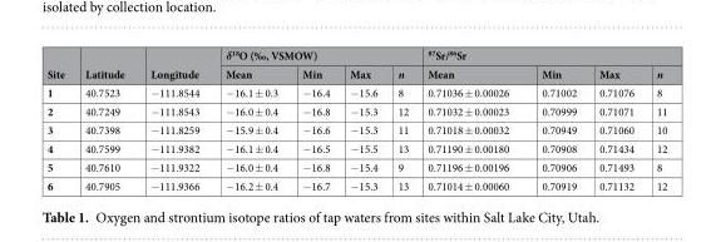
<table><thead><tr><td rowspan="2">Site</td><td rowspan="2">Latitude</td><td rowspan="2">Longitude</td><td colspan="4">δ<sup>18</sup>O (‰, VSMOW)</td><td colspan="4"><sup>87</sup>Sr/<sup>86</sup>Sr</td></tr><tr><td>Mean</td><td>Min</td><td>Max</td><td>n</td><td>Mean</td><td>Min</td><td>Max</td><td>n</td></tr></thead><tbody><tr><td>1</td><td>40.7523</td><td>−111.8544</td><td>−16.1 ± 0.3</td><td>−16.4</td><td>−15.6</td><td>8</td><td>0.71036 ± 0.00026</td><td>0.71002</td><td>0.71076</td><td>8</td></tr><tr><td>2</td><td>40.7249</td><td>−111.8543</td><td>−16.0 ± 0.4</td><td>−16.8</td><td>−15.3</td><td>12</td><td>0.71032 ± 0.00023</td><td>0.70999</td><td>0.71071</td><td>11</td></tr><tr><td>3</td><td>40.7398</td><td>−111.8259</td><td>−15.9 ± 0.4</td><td>−16.6</td><td>−15.3</td><td>11</td><td>0.71018 ± 0.00032</td><td>0.70949</td><td>0.71060</td><td>10</td></tr><tr><td>4</td><td>40.7599</td><td>−111.9382</td><td>−16.1 ± 0.4</td><td>−16.5</td><td>−15.5</td><td>13</td><td>0.71190 ± 0.00180</td><td>0.70908</td><td>0.71434</td><td>12</td></tr><tr><td>5</td><td>40.7610</td><td>−111.9322</td><td>−16.0 ± 0.4</td><td>−16.8</td><td>−15.4</td><td>9</td><td>0.71196 ± 0.00196</td><td>0.70906</td><td>0.71493</td><td>8</td></tr><tr><td>6</td><td>40.7905</td><td>−111.9366</td><td>−16.2 ± 0.4</td><td>−16.7</td><td>−15.3</td><td>13</td><td>0.71014 ± 0.00060</td><td>0.70919</td><td>0.71132</td><td>12</td></tr></tbody></table>